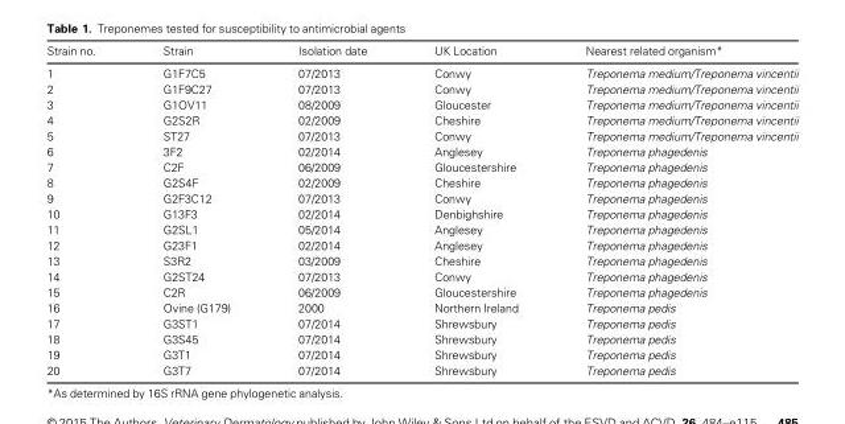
<table><thead><tr><td>Strain no.</td><td>Strain</td><td>Isolation date</td><td>UK Location</td><td>Nearest related organism*</td></tr></thead><tbody><tr><td>1</td><td>G1F7C5</td><td>07/2013</td><td>Conwy</td><td>Treponema medium/Treponema vincentii</td></tr><tr><td>2</td><td>G1F9C27</td><td>07/2013</td><td>Conwy</td><td>Treponema medium/Treponema vincentii</td></tr><tr><td>3</td><td>G1OV11</td><td>08/2009</td><td>Gloucester</td><td>Treponema medium/Treponema vincentii</td></tr><tr><td>4</td><td>G2S2R</td><td>02/2009</td><td>Cheshire</td><td>Treponema medium/Treponema vincentii</td></tr><tr><td>5</td><td>ST27</td><td>07/2013</td><td>Conwy</td><td>Treponema medium/Treponema vincentii</td></tr><tr><td>6</td><td>3F2</td><td>02/2014</td><td>Anglesey</td><td>Treponema phagedenis</td></tr><tr><td>7</td><td>C2F</td><td>06/2009</td><td>Gloucestershire</td><td>Treponema phagedenis</td></tr><tr><td>8</td><td>G2S4F</td><td>02/2009</td><td>Cheshire</td><td>Treponema phagedenis</td></tr><tr><td>9</td><td>G2F3C12</td><td>07/2013</td><td>Conwy</td><td>Treponema phagedenis</td></tr><tr><td>10</td><td>G13F3</td><td>02/2014</td><td>Denbighshire</td><td>Treponema phagedenis</td></tr><tr><td>11</td><td>G2SL1</td><td>05/2014</td><td>Anglesey</td><td>Treponema phagedenis</td></tr><tr><td>12</td><td>G23F1</td><td>02/2014</td><td>Anglesey</td><td>Treponema phagedenis</td></tr><tr><td>13</td><td>S3R2</td><td>03/2009</td><td>Cheshire</td><td>Treponema phagedenis</td></tr><tr><td>14</td><td>G2ST24</td><td>07/2013</td><td>Conwy</td><td>Treponema phagedenis</td></tr><tr><td>15</td><td>C2R</td><td>06/2009</td><td>Gloucestershire</td><td>Treponema phagedenis</td></tr><tr><td>16</td><td>Ovine (G179)</td><td>2000</td><td>Northern Ireland</td><td>Treponema pedis</td></tr><tr><td>17</td><td>G3ST1</td><td>07/2014</td><td>Shrewsbury</td><td>Treponema pedis</td></tr><tr><td>18</td><td>G3S45</td><td>07/2014</td><td>Shrewsbury</td><td>Treponema pedis</td></tr><tr><td>19</td><td>G3T1</td><td>07/2014</td><td>Shrewsbury</td><td>Treponema pedis</td></tr><tr><td>20</td><td>G3T7</td><td>07/2014</td><td>Shrewsbury</td><td>Treponema pedis</td></tr></tbody></table>